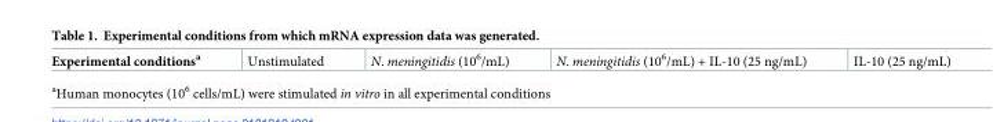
<table><tbody><tr><td>Experimental conditions<sup>a</sup></td><td>Unstimulated</td><td>N. meningitidis (10<sup>6</sup>/mL)</td><td>N. meningitidis (10<sup>6</sup>/mL) + IL-10 (25 ng/mL)</td><td>IL-10 (25 ng/mL)</td></tr></tbody></table>